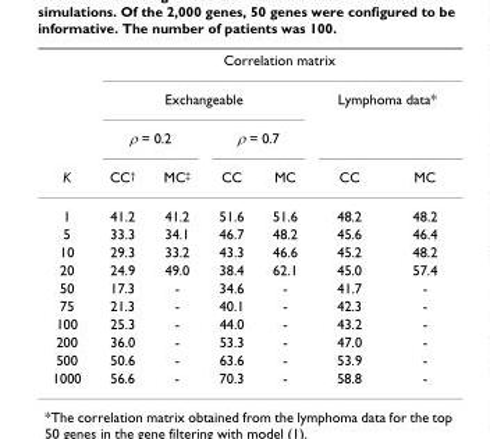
<table><thead><tr><td rowspan="4">K</td><td colspan="6">Correlation matrix</td></tr><tr><td colspan="4">Exchangeable</td><td colspan="2">Lymphoma data*</td></tr><tr><td colspan="2">ρ = 0.2</td><td colspan="2">ρ = 0.7</td><td rowspan="2">CC</td><td rowspan="2">MC</td></tr><tr><td>CC†</td><td>MC‡</td><td>CC</td><td>MC</td></tr></thead><tbody><tr><td>1</td><td>41.2</td><td>41.2</td><td>51.6</td><td>51.6</td><td>48.2</td><td>48.2</td></tr><tr><td>5</td><td>33.3</td><td>34.1</td><td>46.7</td><td>48.2</td><td>45.6</td><td>46.4</td></tr><tr><td>10</td><td>29.3</td><td>33.2</td><td>43.3</td><td>46.6</td><td>45.2</td><td>48.2</td></tr><tr><td>20</td><td>24.9</td><td>49.0</td><td>38.4</td><td>62.1</td><td>45.0</td><td>57.4</td></tr><tr><td>50</td><td>17.3</td><td>-</td><td>34.6</td><td>-</td><td>41.7</td><td>-</td></tr><tr><td>75</td><td>21.3</td><td>-</td><td>40.1</td><td>-</td><td>42.3</td><td>-</td></tr><tr><td>100</td><td>25.3</td><td>-</td><td>44.0</td><td>-</td><td>43.2</td><td>-</td></tr><tr><td>200</td><td>36.0</td><td>-</td><td>53.3</td><td>-</td><td>47.0</td><td>-</td></tr><tr><td>500</td><td>50.6</td><td>-</td><td>63.6</td><td>-</td><td>53.9</td><td>-</td></tr><tr><td>1000</td><td>56.6</td><td>-</td><td>70.3</td><td>-</td><td>58.8</td><td>-</td></tr></tbody></table>